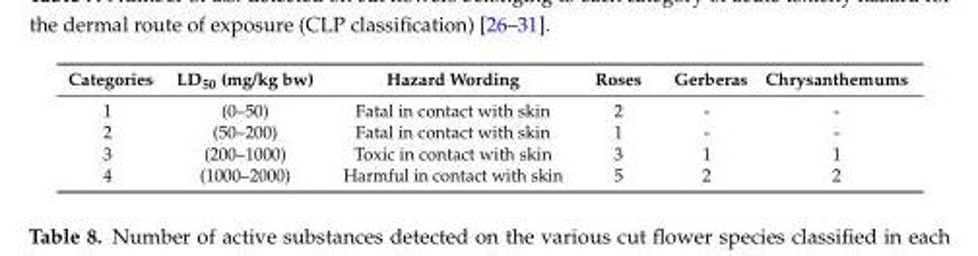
<table><thead><tr><td>Categories</td><td>LD<sub>50</sub> (mg/kg bw)</td><td>Hazard Wording</td><td>Roses</td><td>Gerberas</td><td>Chrysanthemums</td></tr></thead><tbody><tr><td>1</td><td>(0–50)</td><td>Fatal in contact with skin</td><td>2</td><td>-</td><td>-</td></tr><tr><td>2</td><td>(50–200)</td><td>Fatal in contact with skin</td><td>1</td><td>-</td><td>-</td></tr><tr><td>3</td><td>(200–1000)</td><td>Toxic in contact with skin</td><td>3</td><td>1</td><td>1</td></tr><tr><td>4</td><td>(1000–2000)</td><td>Harmful in contact with skin</td><td>5</td><td>2</td><td>2</td></tr></tbody></table>